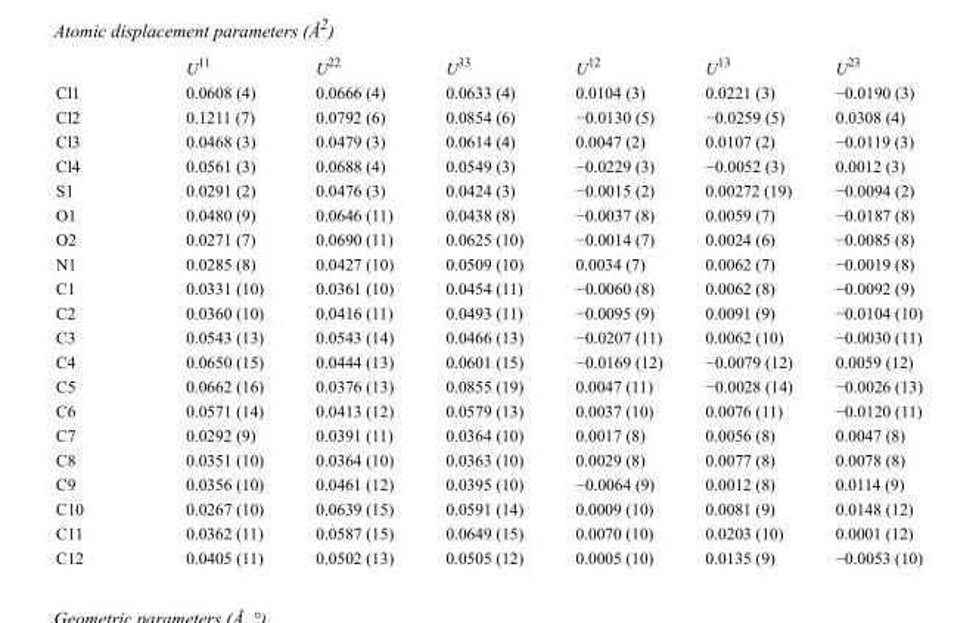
<table><thead><tr><td></td><td>U<sup>11</sup></td><td>U<sup>22</sup></td><td>U<sup>33</sup></td><td>U<sup>12</sup></td><td>U<sup>13</sup></td><td>U<sup>23</sup></td></tr></thead><tbody><tr><td>Cl1</td><td>0.0608 (4)</td><td>0.0666 (4)</td><td>0.0633 (4)</td><td>0.0104 (3)</td><td>0.0221 (3)</td><td>−0.0190 (3)</td></tr><tr><td>Cl2</td><td>0.1211 (7)</td><td>0.0792 (6)</td><td>0.0854 (6)</td><td>−0.0130 (5)</td><td>−0.0259 (5)</td><td>0.0308 (4)</td></tr><tr><td>Cl3</td><td>0.0468 (3)</td><td>0.0479 (3)</td><td>0.0614 (4)</td><td>0.0047 (2)</td><td>0.0107 (2)</td><td>−0.0119 (3)</td></tr><tr><td>Cl4</td><td>0.0561 (3)</td><td>0.0688 (4)</td><td>0.0549 (3)</td><td>−0.0229 (3)</td><td>−0.0052 (3)</td><td>0.0012 (3)</td></tr><tr><td>S1</td><td>0.0291 (2)</td><td>0.0476 (3)</td><td>0.0424 (3)</td><td>−0.0015 (2)</td><td>0.00272 (19)</td><td>−0.0094 (2)</td></tr><tr><td>O1</td><td>0.0480 (9)</td><td>0.0646 (11)</td><td>0.0438 (8)</td><td>−0.0037 (8)</td><td>0.0059 (7)</td><td>−0.0187 (8)</td></tr><tr><td>O2</td><td>0.0271 (7)</td><td>0.0690 (11)</td><td>0.0625 (10)</td><td>−0.0014 (7)</td><td>0.0024 (6)</td><td>−0.0085 (8)</td></tr><tr><td>N1</td><td>0.0285 (8)</td><td>0.0427 (10)</td><td>0.0509 (10)</td><td>0.0034 (7)</td><td>0.0062 (7)</td><td>−0.0019 (8)</td></tr><tr><td>C1</td><td>0.0331 (10)</td><td>0.0361 (10)</td><td>0.0454 (11)</td><td>−0.0060 (8)</td><td>0.0062 (8)</td><td>−0.0092 (9)</td></tr><tr><td>C2</td><td>0.0360 (10)</td><td>0.0416 (11)</td><td>0.0493 (11)</td><td>−0.0095 (9)</td><td>0.0091 (9)</td><td>−0.0104 (10)</td></tr><tr><td>C3</td><td>0.0543 (13)</td><td>0.0543 (14)</td><td>0.0466 (13)</td><td>−0.0207 (11)</td><td>0.0062 (10)</td><td>−0.0030 (11)</td></tr><tr><td>C4</td><td>0.0650 (15)</td><td>0.0444 (13)</td><td>0.0601 (15)</td><td>−0.0169 (12)</td><td>−0.0079 (12)</td><td>0.0059 (12)</td></tr><tr><td>C5</td><td>0.0662 (16)</td><td>0.0376 (13)</td><td>0.0855 (19)</td><td>0.0047 (11)</td><td>−0.0028 (14)</td><td>−0.0026 (13)</td></tr><tr><td>C6</td><td>0.0571 (14)</td><td>0.0413 (12)</td><td>0.0579 (13)</td><td>0.0037 (10)</td><td>0.0076 (11)</td><td>−0.0120 (11)</td></tr><tr><td>C7</td><td>0.0292 (9)</td><td>0.0391 (11)</td><td>0.0364 (10)</td><td>0.0017 (8)</td><td>0.0056 (8)</td><td>0.0047 (8)</td></tr><tr><td>C8</td><td>0.0351 (10)</td><td>0.0364 (10)</td><td>0.0363 (10)</td><td>0.0029 (8)</td><td>0.0077 (8)</td><td>0.0078 (8)</td></tr><tr><td>C9</td><td>0.0356 (10)</td><td>0.0461 (12)</td><td>0.0395 (10)</td><td>−0.0064 (9)</td><td>0.0012 (8)</td><td>0.0114 (9)</td></tr><tr><td>C10</td><td>0.0267 (10)</td><td>0.0639 (15)</td><td>0.0591 (14)</td><td>0.0009 (10)</td><td>0.0081 (9)</td><td>0.0148 (12)</td></tr><tr><td>C11</td><td>0.0362 (11)</td><td>0.0587 (15)</td><td>0.0649 (15)</td><td>0.0070 (10)</td><td>0.0203 (10)</td><td>0.0001 (12)</td></tr><tr><td>C12</td><td>0.0405 (11)</td><td>0.0502 (13)</td><td>0.0505 (12)</td><td>0.0005 (10)</td><td>0.0135 (9)</td><td>−0.0053 (10)</td></tr></tbody></table>